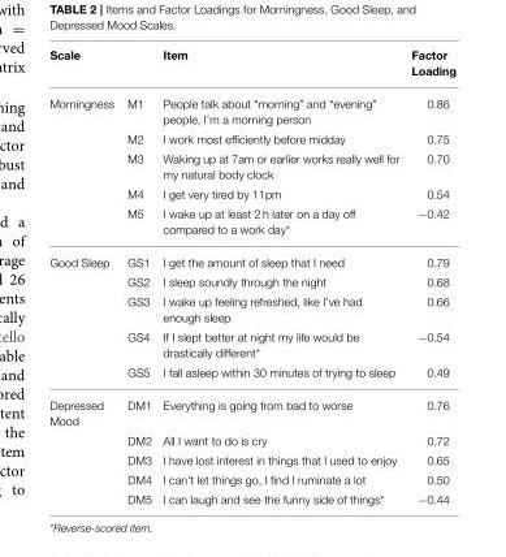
<table><thead><tr><td>Scale</td><td></td><td>Item</td><td>Factor Loading</td></tr></thead><tbody><tr><td rowspan="5">Morningness</td><td>M1</td><td>People talk about “morning” and “evening” people, I’m a morning person</td><td>0.86</td></tr><tr><td>M2</td><td>I work most efficiently before midday</td><td>0.75</td></tr><tr><td>M3</td><td>Waking up at 7am or earlier works really well for my natural body clock</td><td>0.70</td></tr><tr><td>M4</td><td>I get very tired by 11pm</td><td>0.54</td></tr><tr><td>M5</td><td>I wake up at least 2 h later on a day off compared to a work day*</td><td>−0.42</td></tr><tr><td rowspan="5">Good Sleep</td><td>GS1</td><td>I get the amount of sleep that I need</td><td>0.79</td></tr><tr><td>GS2</td><td>I sleep soundly through the night</td><td>0.68</td></tr><tr><td>GS3</td><td>I wake up feeling refreshed, like I’ve had enough sleep</td><td>0.66</td></tr><tr><td>GS4</td><td>If I slept better at night my life would be drastically different*</td><td>−0.54</td></tr><tr><td>GS5</td><td>I fall asleep within 30 minutes of trying to sleep</td><td>0.49</td></tr><tr><td rowspan="5">Depressed Mood</td><td>DM1</td><td>Everything is going from bad to worse</td><td>0.76</td></tr><tr><td>DM2</td><td>All I want to do is cry</td><td>0.72</td></tr><tr><td>DM3</td><td>I have lost interest in things that I used to enjoy</td><td>0.65</td></tr><tr><td>DM4</td><td>I can’t let things go, I find I ruminate a lot</td><td>0.50</td></tr><tr><td>DM5</td><td>I can laugh and see the funny side of things*</td><td>−0.44</td></tr></tbody></table>